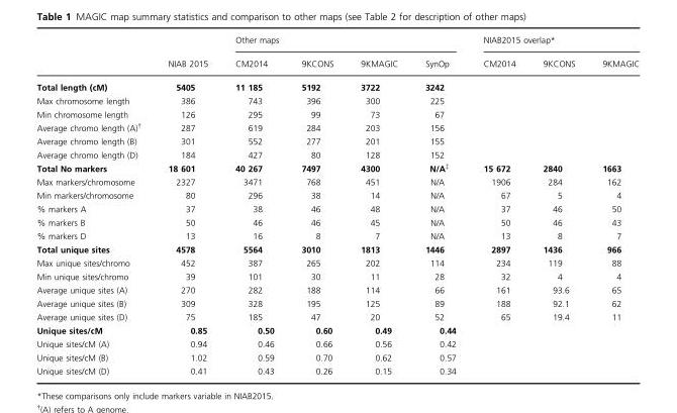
<table><thead><tr><td rowspan="2"></td><td rowspan="2">NIAB 2015</td><td colspan="4">Other maps</td><td colspan="3">NIAB2015 overlap*</td></tr><tr><td>CM2014</td><td>9KCONS</td><td>9KMAGIC</td><td>SynOp</td><td>CM2014</td><td>9KCONS</td><td>9KMAGIC</td></tr></thead><tbody><tr><td>Total length (cM)</td><td>5405</td><td>11 185</td><td>5192</td><td>3722</td><td>3242</td><td></td><td></td><td></td></tr><tr><td>Max chromosome length</td><td>386</td><td>743</td><td>396</td><td>300</td><td>225</td><td></td><td></td><td></td></tr><tr><td>Min chromosome length</td><td>126</td><td>295</td><td>99</td><td>73</td><td>67</td><td></td><td></td><td></td></tr><tr><td>Average chromo length (A)†</td><td>287</td><td>619</td><td>284</td><td>203</td><td>156</td><td></td><td></td><td></td></tr><tr><td>Average chromo length (B)</td><td>301</td><td>552</td><td>277</td><td>201</td><td>155</td><td></td><td></td><td></td></tr><tr><td>Average chromo length (D)</td><td>184</td><td>427</td><td>80</td><td>128</td><td>152</td><td></td><td></td><td></td></tr><tr><td>Total No markers</td><td>18 601</td><td>40 267</td><td>7497</td><td>4300</td><td>N/A‡</td><td>15 672</td><td>2840</td><td>1663</td></tr><tr><td>Max markers/chromosome</td><td>2327</td><td>3471</td><td>768</td><td>451</td><td>N/A</td><td>1906</td><td>284</td><td>162</td></tr><tr><td>Min markers/chromosome</td><td>80</td><td>296</td><td>38</td><td>14</td><td>N/A</td><td>67</td><td>5</td><td>4</td></tr><tr><td>% markers A</td><td>37</td><td>38</td><td>46</td><td>48</td><td>N/A</td><td>37</td><td>46</td><td>50</td></tr><tr><td>% markers B</td><td>50</td><td>46</td><td>46</td><td>45</td><td>N/A</td><td>50</td><td>46</td><td>43</td></tr><tr><td>% markers D</td><td>13</td><td>16</td><td>8</td><td>7</td><td>N/A</td><td>13</td><td>8</td><td>7</td></tr><tr><td>Total unique sites</td><td>4578</td><td>5564</td><td>3010</td><td>1813</td><td>1446</td><td>2897</td><td>1436</td><td>966</td></tr><tr><td>Max unique sites/chromo</td><td>452</td><td>387</td><td>265</td><td>202</td><td>114</td><td>234</td><td>119</td><td>88</td></tr><tr><td>Min unique sites/chromo</td><td>39</td><td>101</td><td>30</td><td>11</td><td>28</td><td>32</td><td>4</td><td>4</td></tr><tr><td>Average unique sites (A)</td><td>270</td><td>282</td><td>188</td><td>114</td><td>66</td><td>161</td><td>93.6</td><td>65</td></tr><tr><td>Average unique sites (B)</td><td>309</td><td>328</td><td>195</td><td>125</td><td>89</td><td>188</td><td>92.1</td><td>62</td></tr><tr><td>Average unique sites (D)</td><td>75</td><td>185</td><td>47</td><td>20</td><td>52</td><td>65</td><td>19.4</td><td>11</td></tr><tr><td>Unique sites/cM</td><td>0.85</td><td>0.50</td><td>0.60</td><td>0.49</td><td>0.44</td><td></td><td></td><td></td></tr><tr><td>Unique sites/cM (A)</td><td>0.94</td><td>0.46</td><td>0.66</td><td>0.56</td><td>0.42</td><td></td><td></td><td></td></tr><tr><td>Unique sites/cM (B)</td><td>1.02</td><td>0.59</td><td>0.70</td><td>0.62</td><td>0.57</td><td></td><td></td><td></td></tr><tr><td>Unique sites/cM (D)</td><td>0.41</td><td>0.43</td><td>0.26</td><td>0.15</td><td>0.34</td><td></td><td></td><td></td></tr></tbody></table>